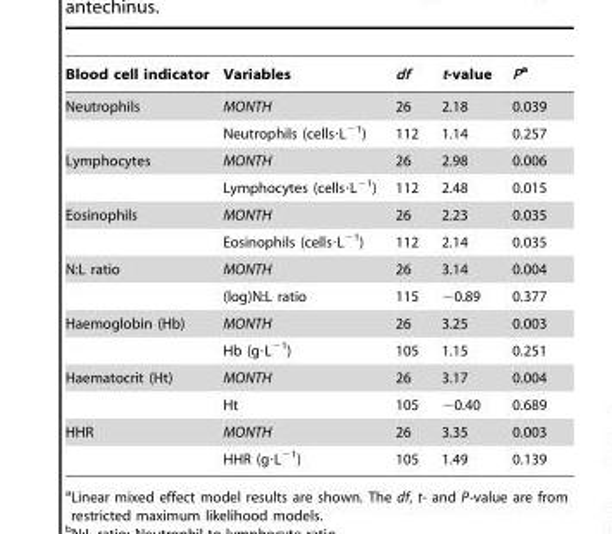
<table><thead><tr><td>Blood cell indicator</td><td>Variables</td><td>df</td><td>t-value</td><td>Pa</td></tr></thead><tbody><tr><td rowspan="2">Neutrophils</td><td>MONTH</td><td>26</td><td>2.18</td><td>0.039</td></tr><tr><td>Neutrophils (cells·L<sup>−1</sup>)</td><td>112</td><td>1.14</td><td>0.257</td></tr><tr><td rowspan="2">Lymphocytes</td><td>MONTH</td><td>26</td><td>2.98</td><td>0.006</td></tr><tr><td>Lymphocytes (cells·L<sup>−1</sup>)</td><td>112</td><td>2.48</td><td>0.015</td></tr><tr><td rowspan="2">Eosinophils</td><td>MONTH</td><td>26</td><td>2.23</td><td>0.035</td></tr><tr><td>Eosinophils (cells·L<sup>−1</sup>)</td><td>112</td><td>2.14</td><td>0.035</td></tr><tr><td rowspan="2">N:L ratio</td><td>MONTH</td><td>26</td><td>3.14</td><td>0.004</td></tr><tr><td>(log)N:L ratio</td><td>115</td><td>−0.89</td><td>0.377</td></tr><tr><td rowspan="2">Haemoglobin (Hb)</td><td>MONTH</td><td>26</td><td>3.25</td><td>0.003</td></tr><tr><td>Hb (g·L<sup>−1</sup>)</td><td>105</td><td>1.15</td><td>0.251</td></tr><tr><td rowspan="2">Haematocrit (Ht)</td><td>MONTH</td><td>26</td><td>3.17</td><td>0.004</td></tr><tr><td>Ht</td><td>105</td><td>−0.40</td><td>0.689</td></tr><tr><td rowspan="2">HHR</td><td>MONTH</td><td>26</td><td>3.35</td><td>0.003</td></tr><tr><td>HHR (g·L<sup>−1</sup>)</td><td>105</td><td>1.49</td><td>0.139</td></tr></tbody></table>